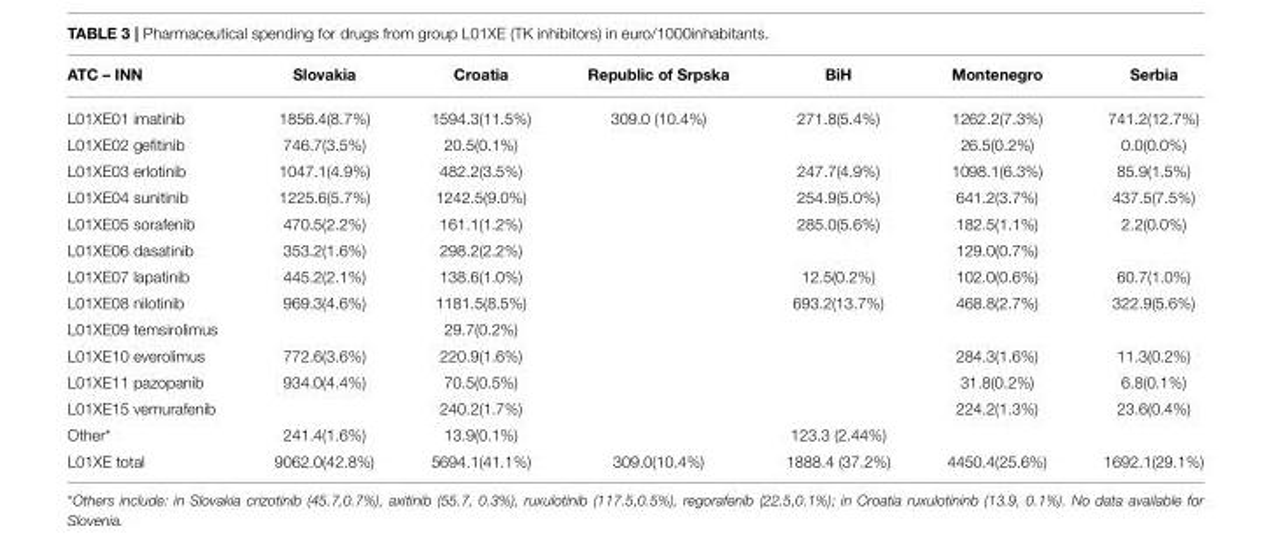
<table><thead><tr><td>ATC – INN</td><td>Slovakia</td><td>Croatia</td><td>Republic of Srpska</td><td>BiH</td><td>Montenegro</td><td>Serbia</td></tr></thead><tbody><tr><td>L01XE01 imatinib</td><td>1856.4(8.7%)</td><td>1594.3(11.5%)</td><td>309.0 (10.4%)</td><td>271.8(5.4%)</td><td>1262.2(7.3%)</td><td>741.2(12.7%)</td></tr><tr><td>L01XE02 gefitinib</td><td>746.7(3.5%)</td><td>20.5(0.1%)</td><td></td><td></td><td>26.5(0.2%)</td><td>0.0(0.0%)</td></tr><tr><td>L01XE03 erlotinib</td><td>1047.1(4.9%)</td><td>482.2(3.5%)</td><td></td><td>247.7(4.9%)</td><td>1098.1(6.3%)</td><td>85.9(1.5%)</td></tr><tr><td>L01XE04 sunitinib</td><td>1225.6(5.7%)</td><td>1242.5(9.0%)</td><td></td><td>254.9(5.0%)</td><td>641.2(3.7%)</td><td>437.5(7.5%)</td></tr><tr><td>L01XE05 sorafenib</td><td>470.5(2.2%)</td><td>161.1(1.2%)</td><td></td><td>285.0(5.6%)</td><td>182.5(1.1%)</td><td>2.2(0.0%)</td></tr><tr><td>L01XE06 dasatinib</td><td>353.2(1.6%)</td><td>298.2(2.2%)</td><td></td><td></td><td>129.0(0.7%)</td><td></td></tr><tr><td>L01XE07 lapatinib</td><td>445.2(2.1%)</td><td>138.6(1.0%)</td><td></td><td>12.5(0.2%)</td><td>102.0(0.6%)</td><td>60.7(1.0%)</td></tr><tr><td>L01XE08 nilotinib</td><td>969.3(4.6%)</td><td>1181.5(8.5%)</td><td></td><td>693.2(13.7%)</td><td>468.8(2.7%)</td><td>322.9(5.6%)</td></tr><tr><td>L01XE09 temsirolimus</td><td></td><td>29.7(0.2%)</td><td></td><td></td><td></td><td></td></tr><tr><td>L01XE10 everolimus</td><td>772.6(3.6%)</td><td>220.9(1.6%)</td><td></td><td></td><td>284.3(1.6%)</td><td>11.3(0.2%)</td></tr><tr><td>L01XE11 pazopanib</td><td>934.0(4.4%)</td><td>70.5(0.5%)</td><td></td><td></td><td>31.8(0.2%)</td><td>6.8(0.1%)</td></tr><tr><td>L01XE15 vemurafenib</td><td></td><td>240.2(1.7%)</td><td></td><td></td><td>224.2(1.3%)</td><td>23.6(0.4%)</td></tr><tr><td>Other*</td><td>241.4(1.6%)</td><td>13.9(0.1%)</td><td></td><td>123.3 (2.44%)</td><td></td><td></td></tr><tr><td>L01XE total</td><td>9062.0(42.8%)</td><td>5694.1(41.1%)</td><td>309.0(10.4%)</td><td>1888.4 (37.2%)</td><td>4450.4(25.6%)</td><td>1692.1(29.1%)</td></tr></tbody></table>